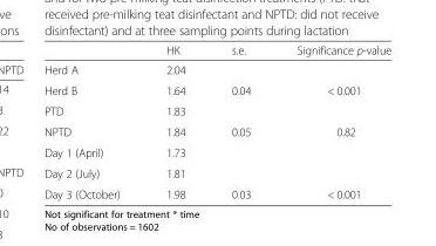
<table><thead><tr><td></td><td>HK</td><td>s.e.</td><td>Significance p-value</td></tr></thead><tbody><tr><td>Herd A</td><td>2.04</td><td></td><td></td></tr><tr><td>Herd B</td><td>1.64</td><td>0.04</td><td>&lt; 0.001</td></tr><tr><td>PTD</td><td>1.83</td><td></td><td></td></tr><tr><td>NPTD</td><td>1.84</td><td>0.05</td><td>0.82</td></tr><tr><td>Day 1 (April)</td><td>1.73</td><td></td><td></td></tr><tr><td>Day 2 (July)</td><td>1.81</td><td></td><td></td></tr><tr><td>Day 3 (October)</td><td>1.98</td><td>0.03</td><td>&lt; 0.001</td></tr></tbody></table>